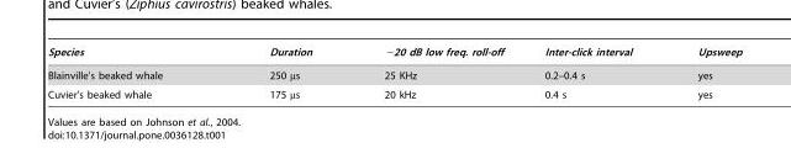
<table><thead><tr><td>Species</td><td>Duration</td><td>−20 dB low freq. roll-off</td><td>Inter-click interval</td><td>Upsweep</td></tr></thead><tbody><tr><td>Blainville’s beaked whale</td><td>250 µs</td><td>25 KHz</td><td>0.2–0.4 s</td><td>yes</td></tr><tr><td>Cuvier’s beaked whale</td><td>175 µs</td><td>20 kHz</td><td>0.4 s</td><td>yes</td></tr></tbody></table>